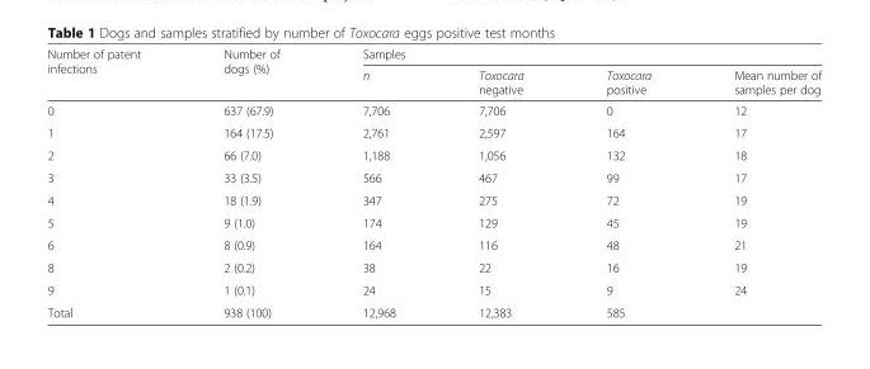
<table><thead><tr><td rowspan="2">Number of patent infections</td><td rowspan="2">Number of dogs (%)</td><td colspan="4">Samples</td></tr><tr><td>n</td><td>Toxocara negative</td><td>Toxocara positive</td><td>Mean number of samples per dog</td></tr></thead><tbody><tr><td>0</td><td>637 (67.9)</td><td>7,706</td><td>7,706</td><td>0</td><td>12</td></tr><tr><td>1</td><td>164 (17.5)</td><td>2,761</td><td>2,597</td><td>164</td><td>17</td></tr><tr><td>2</td><td>66 (7.0)</td><td>1,188</td><td>1,056</td><td>132</td><td>18</td></tr><tr><td>3</td><td>33 (3.5)</td><td>566</td><td>467</td><td>99</td><td>17</td></tr><tr><td>4</td><td>18 (1.9)</td><td>347</td><td>275</td><td>72</td><td>19</td></tr><tr><td>5</td><td>9 (1.0)</td><td>174</td><td>129</td><td>45</td><td>19</td></tr><tr><td>6</td><td>8 (0.9)</td><td>164</td><td>116</td><td>48</td><td>21</td></tr><tr><td>8</td><td>2 (0.2)</td><td>38</td><td>22</td><td>16</td><td>19</td></tr><tr><td>9</td><td>1 (0.1)</td><td>24</td><td>15</td><td>9</td><td>24</td></tr><tr><td>Total</td><td>938 (100)</td><td>12,968</td><td>12,383</td><td>585</td><td></td></tr></tbody></table>